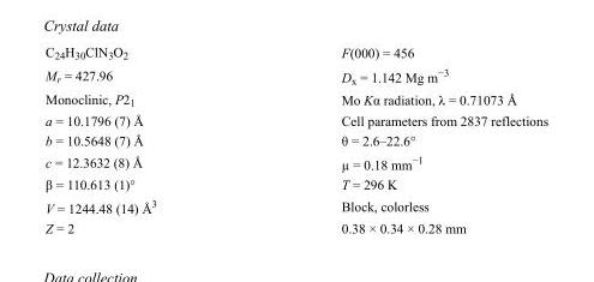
<table><tbody><tr><td>C<sub>24</sub>H<sub>30</sub>ClN<sub>3</sub>O<sub>2</sub></td><td>F(000) = 456</td></tr><tr><td>M<sub>r</sub> = 427.96</td><td>D<sub>x</sub> = 1.142 Mg m<sup>−3</sup></td></tr><tr><td>Monoclinic, P2<sub>1</sub></td><td>Mo Kα radiation, λ = 0.71073 Å</td></tr><tr><td>a = 10.1796 (7) Å</td><td>Cell parameters from 2837 reflections</td></tr><tr><td>b = 10.5648 (7) Å</td><td>θ = 2.6–22.6°</td></tr><tr><td>c = 12.3632 (8) Å</td><td>µ = 0.18 mm<sup>−1</sup></td></tr><tr><td>β = 110.613 (1)°</td><td>T = 296 K</td></tr><tr><td>V = 1244.48 (14) Å<sup>3</sup></td><td>Block, colorless</td></tr><tr><td>Z = 2</td><td>0.38 × 0.34 × 0.28 mm</td></tr></tbody></table>